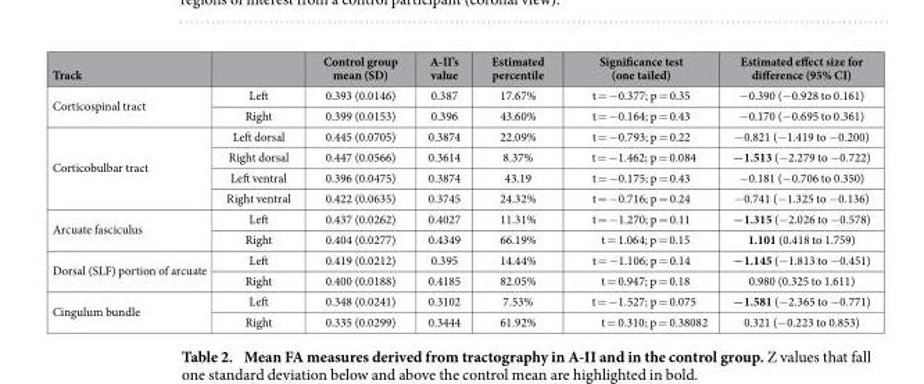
<table><thead><tr><td>Track</td><td></td><td>Control group mean (SD)</td><td>A-II’s value</td><td>Estimated percentile</td><td>Significance test (one tailed)</td><td>Estimated effect size for difference (95% CI)</td></tr></thead><tbody><tr><td rowspan="2">Corticospinal tract</td><td>Left</td><td>0.393 (0.0146)</td><td>0.387</td><td>17.67%</td><td>t = − 0.377; p = 0.35</td><td>− 0.390 (− 0.928 to 0.161)</td></tr><tr><td>Right</td><td>0.399 (0.0153)</td><td>0.396</td><td>43.60%</td><td>t = − 0.164; p = 0.43</td><td>− 0.170 (− 0.695 to 0.361)</td></tr><tr><td rowspan="4">Corticobulbar tract</td><td>Left dorsal</td><td>0.445 (0.0705)</td><td>0.3874</td><td>22.09%</td><td>t = − 0.793; p = 0.22</td><td>− 0.821 (− 1.419 to − 0.200)</td></tr><tr><td>Right dorsal</td><td>0.447 (0.0566)</td><td>0.3614</td><td>8.37%</td><td>t = − 1.462; p = 0.084</td><td>− 1.513 (− 2.279 to − 0.722)</td></tr><tr><td>Left ventral</td><td>0.396 (0.0475)</td><td>0.3874</td><td>43.19</td><td>t = − 0.175; p = 0.43</td><td>− 0.181 (− 0.706 to 0.350)</td></tr><tr><td>Right ventral</td><td>0.422 (0.0635)</td><td>0.3745</td><td>24.32%</td><td>t = − 0.716; p = 0.24</td><td>− 0.741 (− 1.325 to − 0.136)</td></tr><tr><td rowspan="2">Arcuate fasciculus</td><td>Left</td><td>0.437 (0.0262)</td><td>0.4027</td><td>11.31%</td><td>t = − 1.270; p = 0.11</td><td>− 1.315 (− 2.026 to − 0.578)</td></tr><tr><td>Right</td><td>0.404 (0.0277)</td><td>0.4349</td><td>66.19%</td><td>t = 1.064; p = 0.15</td><td>1.101 (0.418 to 1.759)</td></tr><tr><td rowspan="2">Dorsal (SLF) portion of arcuate</td><td>Left</td><td>0.419 (0.0212)</td><td>0.395</td><td>14.44%</td><td>t = − 1.106; p = 0.14</td><td>− 1.145 (− 1.813 to − 0.451)</td></tr><tr><td>Right</td><td>0.400 (0.0188)</td><td>0.4185</td><td>82.05%</td><td>t = 0.947; p = 0.18</td><td>0.980 (0.325 to 1.611)</td></tr><tr><td rowspan="2">Cingulum bundle</td><td>Left</td><td>0.348 (0.0241)</td><td>0.3102</td><td>7.53%</td><td>t = − 1.527; p = 0.075</td><td>− 1.581 (− 2.365 to − 0.771)</td></tr><tr><td>Right</td><td>0.335 (0.0299)</td><td>0.3444</td><td>61.92%</td><td>t = 0.310; p = 0.38082</td><td>0.321 (− 0.223 to 0.853)</td></tr></tbody></table>